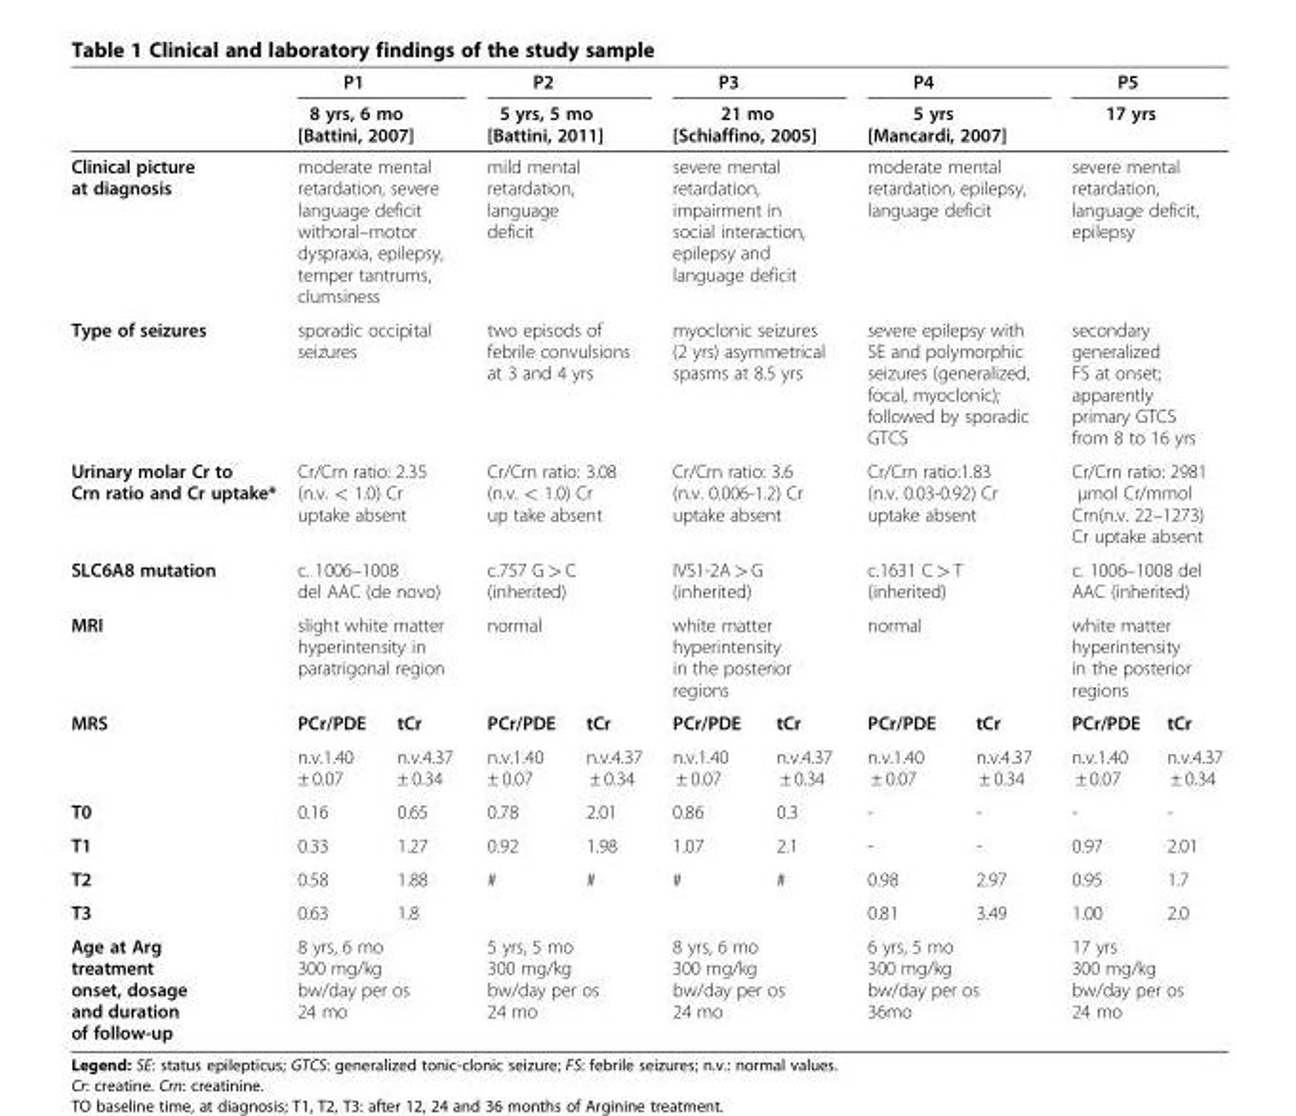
<table><thead><tr><td rowspan="2"></td><td rowspan="2" colspan="2">P1 8 yrs, 6 mo [Battini, 2007]</td><td rowspan="2" colspan="2">P2 5 yrs, 5 mo [Battini, 2011]</td><td rowspan="2" colspan="2">P3 21 mo [Schiaffino, 2005]</td><td rowspan="2" colspan="2">P4 5 yrs [Mancardi, 2007]</td><td rowspan="2" colspan="2">P5 17 yrs</td></tr><tr></tr></thead><tbody><tr><td>Clinical picture at diagnosis</td><td colspan="2">moderate mental retardation, severe language deficit withoral–motor dyspraxia, epilepsy, temper tantrums, clumsiness</td><td colspan="2">mild mental retardation, language deficit</td><td colspan="2">severe mental retardation, impairment in social interaction, epilepsy and language deficit</td><td colspan="2">moderate mental retardation, epilepsy, language deficit</td><td colspan="2">severe mental retardation, language deficit, epilepsy</td></tr><tr><td>Type of seizures</td><td colspan="2">sporadic occipital seizures</td><td colspan="2">two episods of febrile convulsions at 3 and 4 yrs</td><td colspan="2">myoclonic seizures (2 yrs) asymmetrical spasms at 8.5 yrs</td><td colspan="2">severe epilepsy with SE and polymorphic seizures (generalized, focal, myoclonic); followed by sporadic GTCS</td><td colspan="2">secondary generalized FS at onset; apparently primary GTCS from 8 to 16 yrs</td></tr><tr><td>Urinary molar Cr to Crn ratio and Cr uptake*</td><td colspan="2">Cr/Crn ratio: 2.35 (n.v. &lt; 1.0) Cr uptake absent</td><td colspan="2">Cr/Crn ratio: 3.08 (n.v. &lt; 1.0) Cr up take absent</td><td colspan="2">Cr/Crn ratio: 3.6 (n.v. 0.006-1.2) Cr uptake absent</td><td colspan="2">Cr/Crn ratio:1.83 (n.v. 0.03-0.92) Cr uptake absent</td><td colspan="2">Cr/Crn ratio: 2981 μmol Cr/mmol Crn(n.v. 22–1273) Cr uptake absent</td></tr><tr><td>SLC6A8 mutation</td><td colspan="2">c. 1006–1008 del AAC (de novo)</td><td colspan="2">c.757 G &gt; C (inherited)</td><td colspan="2">IVS1-2A &gt; G (inherited)</td><td colspan="2">c.1631 C &gt; T (inherited)</td><td colspan="2">c. 1006–1008 del AAC (inherited)</td></tr><tr><td>MRI</td><td colspan="2">slight white matter hyperintensity in paratrigonal region</td><td colspan="2">normal</td><td colspan="2">white matter hyperintensity in the posterior regions</td><td colspan="2">normal</td><td colspan="2">white matter hyperintensity in the posterior regions</td></tr><tr><td rowspan="2">MRS</td><td>PCr/PDE</td><td>tCr</td><td>PCr/PDE</td><td>tCr</td><td>PCr/PDE</td><td>tCr</td><td>PCr/PDE</td><td>tCr</td><td>PCr/PDE</td><td>tCr</td></tr><tr><td>n.v.1.40 ± 0.07</td><td>n.v.4.37 ± 0.34</td><td>n.v.1.40 ± 0.07</td><td>n.v.4.37 ± 0.34</td><td>n.v.1.40 ± 0.07</td><td>n.v.4.37 ± 0.34</td><td>n.v.1.40 ± 0.07</td><td>n.v.4.37 ± 0.34</td><td>n.v.1.40 ± 0.07</td><td>n.v.4.37 ± 0.34</td></tr><tr><td>T0</td><td>0.16</td><td>0.65</td><td>0.78</td><td>2.01</td><td>0.86</td><td>0.3</td><td>-</td><td>-</td><td>-</td><td>-</td></tr><tr><td>T1</td><td>0.33</td><td>1.27</td><td>0.92</td><td>1.98</td><td>1.07</td><td>2.1</td><td>-</td><td>-</td><td>0.97</td><td>2.01</td></tr><tr><td>T2</td><td>0.58</td><td>1.88</td><td>#</td><td>#</td><td>#</td><td>#</td><td>0.98</td><td>2.97</td><td>0.95</td><td>1.7</td></tr><tr><td>T3</td><td>0.63</td><td>1.8</td><td></td><td></td><td></td><td></td><td>0.81</td><td>3.49</td><td>1.00</td><td>2.0</td></tr><tr><td>Age at Arg treatment onset, dosage and duration of follow-up</td><td colspan="2">8 yrs, 6 mo 300 mg/kg bw/day per os 24 mo</td><td colspan="2">5 yrs, 5 mo 300 mg/kg bw/day per os 24 mo</td><td colspan="2">8 yrs, 6 mo 300 mg/kg bw/day per os 24 mo</td><td colspan="2">6 yrs, 5 mo 300 mg/kg bw/day per os 36mo</td><td colspan="2">17 yrs 300 mg/kg bw/day per os 24 mo</td></tr></tbody></table>